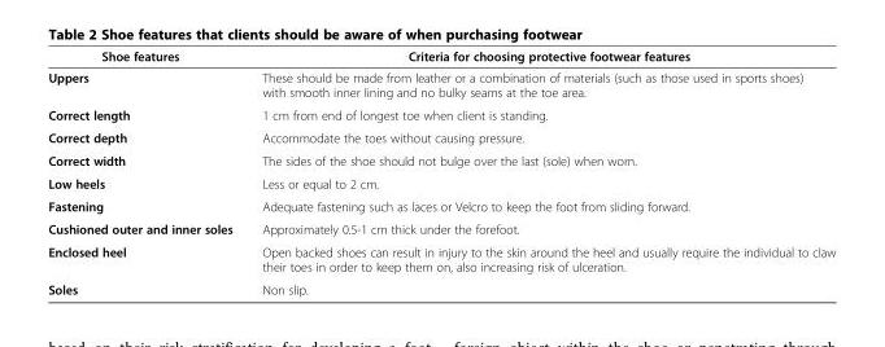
<table><thead><tr><td>Shoe features</td><td>Criteria for choosing protective footwear features</td></tr></thead><tbody><tr><td>Uppers</td><td>These should be made from leather or a combination of materials (such as those used in sports shoes) with smooth inner lining and no bulky seams at the toe area.</td></tr><tr><td>Correct length</td><td>1 cm from end of longest toe when client is standing.</td></tr><tr><td>Correct depth</td><td>Accommodate the toes without causing pressure.</td></tr><tr><td>Correct width</td><td>The sides of the shoe should not bulge over the last (sole) when worn.</td></tr><tr><td>Low heels</td><td>Less or equal to 2 cm.</td></tr><tr><td>Fastening</td><td>Adequate fastening such as laces or Velcro to keep the foot from sliding forward.</td></tr><tr><td>Cushioned outer and inner soles</td><td>Approximately 0.5-1 cm thick under the forefoot.</td></tr><tr><td>Enclosed heel</td><td>Open backed shoes can result in injury to the skin around the heel and usually require the individual to claw their toes in order to keep them on, also increasing risk of ulceration.</td></tr><tr><td>Soles</td><td>Non slip.</td></tr></tbody></table>